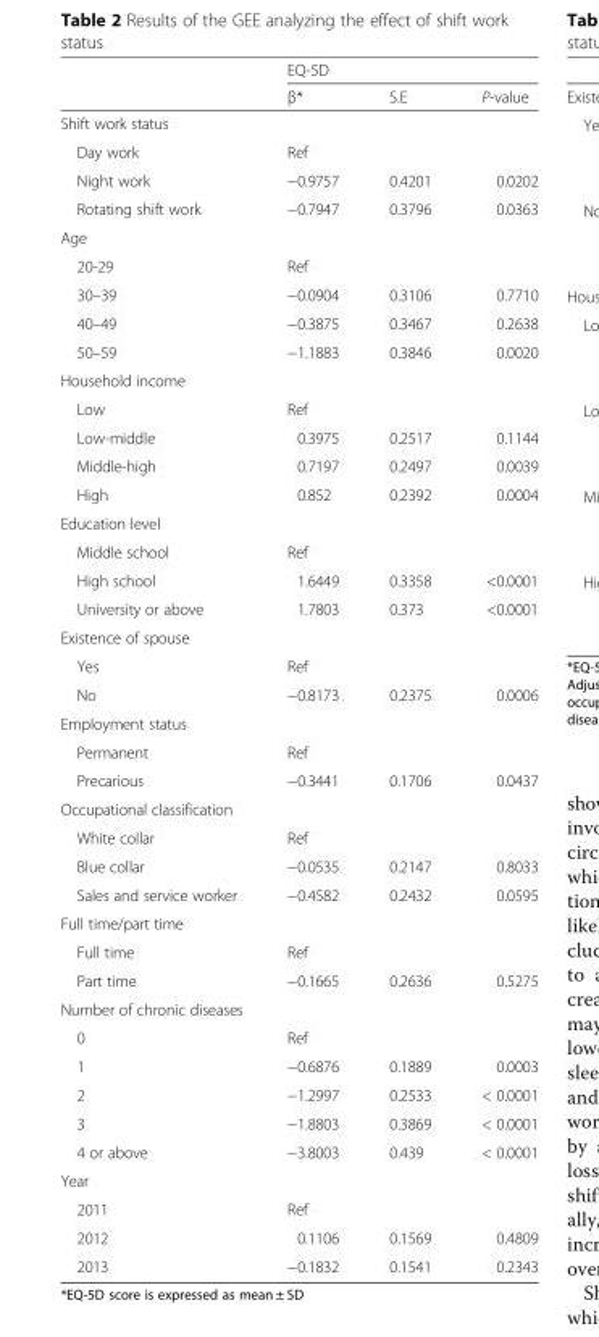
<table><thead><tr><td rowspan="2"></td><td colspan="3">EQ-5D</td></tr><tr><td>β*</td><td>S.E</td><td>P-value</td></tr></thead><tbody><tr><td colspan="4">Shift work status</td></tr><tr><td>Day work</td><td>Ref</td><td></td><td></td></tr><tr><td>Night work</td><td>−0.9757</td><td>0.4201</td><td>0.0202</td></tr><tr><td>Rotating shift work</td><td>−0.7947</td><td>0.3796</td><td>0.0363</td></tr><tr><td colspan="4">Age</td></tr><tr><td>20-29</td><td>Ref</td><td></td><td></td></tr><tr><td>30–39</td><td>−0.0904</td><td>0.3106</td><td>0.7710</td></tr><tr><td>40–49</td><td>−0.3875</td><td>0.3467</td><td>0.2638</td></tr><tr><td>50–59</td><td>−1.1883</td><td>0.3846</td><td>0.0020</td></tr><tr><td colspan="4">Household income</td></tr><tr><td>Low</td><td>Ref</td><td></td><td></td></tr><tr><td>Low-middle</td><td>0.3975</td><td>0.2517</td><td>0.1144</td></tr><tr><td>Middle-high</td><td>0.7197</td><td>0.2497</td><td>0.0039</td></tr><tr><td>High</td><td>0.852</td><td>0.2392</td><td>0.0004</td></tr><tr><td colspan="4">Education level</td></tr><tr><td>Middle school</td><td>Ref</td><td></td><td></td></tr><tr><td>High school</td><td>1.6449</td><td>0.3358</td><td>&lt;0.0001</td></tr><tr><td>University or above</td><td>1.7803</td><td>0.373</td><td>&lt;0.0001</td></tr><tr><td colspan="4">Existence of spouse</td></tr><tr><td>Yes</td><td>Ref</td><td></td><td></td></tr><tr><td>No</td><td>−0.8173</td><td>0.2375</td><td>0.0006</td></tr><tr><td colspan="4">Employment status</td></tr><tr><td>Permanent</td><td>Ref</td><td></td><td></td></tr><tr><td>Precarious</td><td>−0.3441</td><td>0.1706</td><td>0.0437</td></tr><tr><td colspan="4">Occupational classification</td></tr><tr><td>White collar</td><td>Ref</td><td></td><td></td></tr><tr><td>Blue collar</td><td>−0.0535</td><td>0.2147</td><td>0.8033</td></tr><tr><td>Sales and service worker</td><td>−0.4582</td><td>0.2432</td><td>0.0595</td></tr><tr><td colspan="4">Full time/part time</td></tr><tr><td>Full time</td><td>Ref</td><td></td><td></td></tr><tr><td>Part time</td><td>−0.1665</td><td>0.2636</td><td>0.5275</td></tr><tr><td colspan="4">Number of chronic diseases</td></tr><tr><td>0</td><td>Ref</td><td></td><td></td></tr><tr><td>1</td><td>−0.6876</td><td>0.1889</td><td>0.0003</td></tr><tr><td>2</td><td>−1.2997</td><td>0.2533</td><td>&lt; 0.0001</td></tr><tr><td>3</td><td>−1.8803</td><td>0.3869</td><td>&lt; 0.0001</td></tr><tr><td>4 or above</td><td>−3.8003</td><td>0.439</td><td>&lt; 0.0001</td></tr><tr><td colspan="4">Year</td></tr><tr><td>2011</td><td>Ref</td><td></td><td></td></tr><tr><td>2012</td><td>0.1106</td><td>0.1569</td><td>0.4809</td></tr><tr><td>2013</td><td>−0.1832</td><td>0.1541</td><td>0.2343</td></tr></tbody></table>